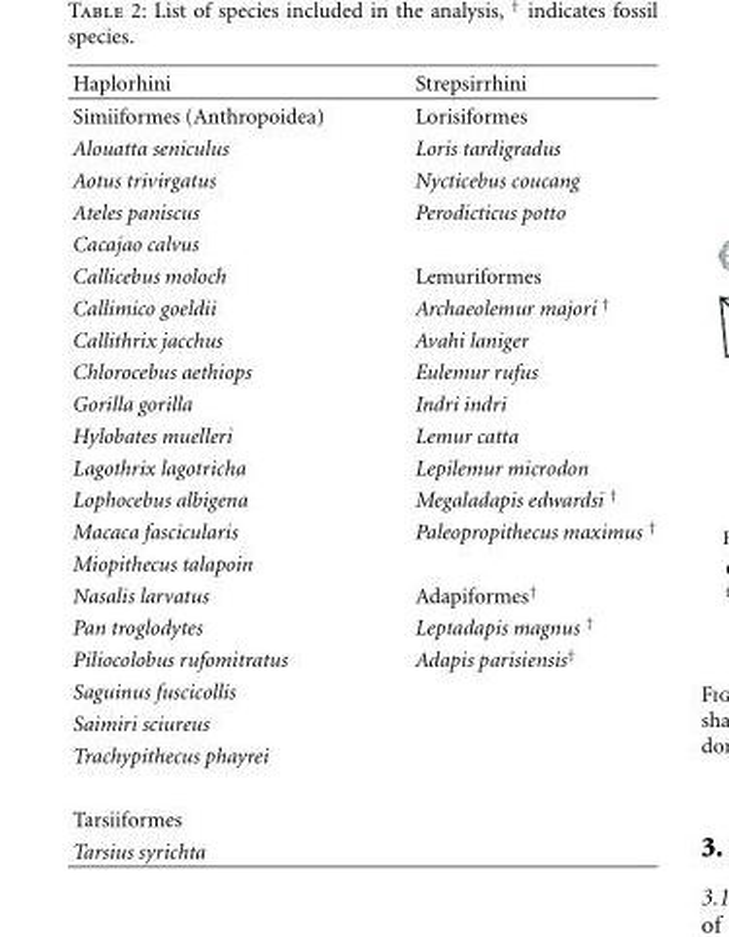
<table><thead><tr><td>Haplorhini</td><td>Strepsirrhini</td></tr></thead><tbody><tr><td>Simiiformes (Anthropoidea)</td><td>Lorisiformes</td></tr><tr><td>Alouatta seniculus</td><td>Loris tardigradus</td></tr><tr><td>Aotus trivirgatus</td><td>Nycticebus coucang</td></tr><tr><td>Ateles paniscus</td><td>Perodicticus potto</td></tr><tr><td colspan="2">Cacajao calvus</td></tr><tr><td>Callicebus moloch</td><td>Lemuriformes</td></tr><tr><td>Callimico goeldii</td><td>Archaeolemur majori <sup>†</sup></td></tr><tr><td>Callithrix jacchus</td><td>Avahi laniger</td></tr><tr><td>Chlorocebus aethiops</td><td>Eulemur rufus</td></tr><tr><td>Gorilla gorilla</td><td>Indri indri</td></tr><tr><td>Hylobates muelleri</td><td>Lemur catta</td></tr><tr><td>Lagothrix lagotricha</td><td>Lepilemur microdon</td></tr><tr><td>Lophocebus albigena</td><td>Megaladapis edwardsi <sup>†</sup></td></tr><tr><td>Macaca fascicularis</td><td>Paleopropithecus maximus <sup>†</sup></td></tr><tr><td colspan="2">Miopithecus talapoin</td></tr><tr><td>Nasalis larvatus</td><td>Adapiformes<sup>†</sup></td></tr><tr><td>Pan troglodytes</td><td>Leptadapis magnus <sup>†</sup></td></tr><tr><td>Piliocolobus rufomitratus</td><td>Adapis parisiensis<sup>†</sup></td></tr><tr><td colspan="2">Saguinus fuscicollis</td></tr><tr><td colspan="2">Saimiri sciureus</td></tr><tr><td colspan="2">Trachypithecus phayrei</td></tr><tr><td colspan="2">Tarsiiformes</td></tr><tr><td>Tarsius syrichta</td><td></td></tr></tbody></table>